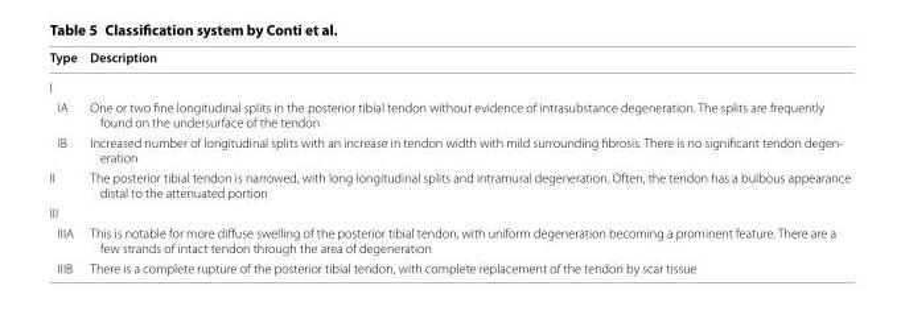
<table><thead><tr><td>Type</td><td>Description</td></tr></thead><tbody><tr><td colspan="2">I</td></tr><tr><td>IA</td><td>One or two fine longitudinal splits in the posterior tibial tendon without evidence of intrasubstance degeneration. The splits are frequently found on the undersurface of the tendon</td></tr><tr><td>IB</td><td>Increased number of longitudinal splits with an increase in tendon width with mild surrounding fibrosis. There is no significant tendon degen‑ eration</td></tr><tr><td>II</td><td>The posterior tibial tendon is narrowed, with long longitudinal splits and intramural degeneration. Often, the tendon has a bulbous appearance distal to the attenuated portion</td></tr><tr><td colspan="2">III</td></tr><tr><td>IIIA</td><td>This is notable for more diffuse swelling of the posterior tibial tendon, with uniform degeneration becoming a prominent feature. There are a few strands of intact tendon through the area of degeneration</td></tr><tr><td>IIIB</td><td>There is a complete rupture of the posterior tibial tendon, with complete replacement of the tendon by scar tissue</td></tr></tbody></table>